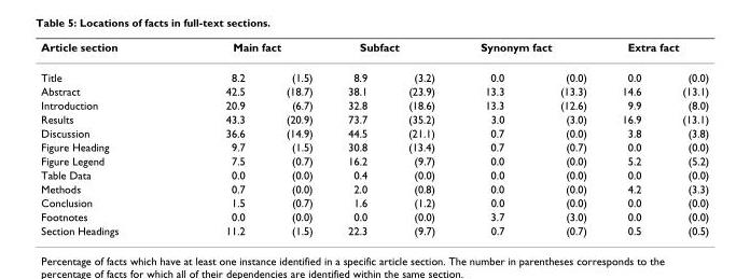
<table><thead><tr><td rowspan="2">Article section Title</td><td colspan="2">Main fact</td><td colspan="2">Subfact</td><td colspan="2">Synonym fact</td><td colspan="2">Extra fact</td></tr><tr><td>8.2</td><td>(1.5)</td><td>8.9</td><td>(3.2)</td><td>0.0</td><td>(0.0)</td><td>0.0</td><td>(0.0)</td></tr></thead><tbody><tr><td>Abstract</td><td>42.5</td><td>(18.7)</td><td>38.1</td><td>(23.9)</td><td>13.3</td><td>(13.3)</td><td>14.6</td><td>(13.1)</td></tr><tr><td>Introduction</td><td>20.9</td><td>(6.7)</td><td>32.8</td><td>(18.6)</td><td>13.3</td><td>(12.6)</td><td>9.9</td><td>(8.0)</td></tr><tr><td>Results</td><td>43.3</td><td>(20.9)</td><td>73.7</td><td>(35.2)</td><td>3.0</td><td>(3.0)</td><td>16.9</td><td>(13.1)</td></tr><tr><td>Discussion</td><td>36.6</td><td>(14.9)</td><td>44.5</td><td>(21.1)</td><td>0.7</td><td>(0.0)</td><td>3.8</td><td>(3.8)</td></tr><tr><td>Figure Heading</td><td>9.7</td><td>(1.5)</td><td>30.8</td><td>(13.4)</td><td>0.7</td><td>(0.7)</td><td>0.0</td><td>(0.0)</td></tr><tr><td>Figure Legend</td><td>7.5</td><td>(0.7)</td><td>16.2</td><td>(9.7)</td><td>0.0</td><td>(0.0)</td><td>5.2</td><td>(5.2)</td></tr><tr><td>Table Data</td><td>0.0</td><td>(0.0)</td><td>0.4</td><td>(0.0)</td><td>0.0</td><td>(0.0)</td><td>0.0</td><td>(0.0)</td></tr><tr><td>Methods</td><td>0.7</td><td>(0.0)</td><td>2.0</td><td>(0.8)</td><td>0.0</td><td>(0.0)</td><td>4.2</td><td>(3.3)</td></tr><tr><td>Conclusion</td><td>1.5</td><td>(0.7)</td><td>1.6</td><td>(1.2)</td><td>0.0</td><td>(0.0)</td><td>0.0</td><td>(0.0)</td></tr><tr><td>Footnotes</td><td>0.0</td><td>(0.0)</td><td>0.0</td><td>(0.0)</td><td>3.7</td><td>(3.0)</td><td>0.0</td><td>(0.0)</td></tr><tr><td>Section Headings</td><td>11.2</td><td>(1.5)</td><td>22.3</td><td>(9.7)</td><td>0.7</td><td>(0.7)</td><td>0.5</td><td>(0.5)</td></tr></tbody></table>